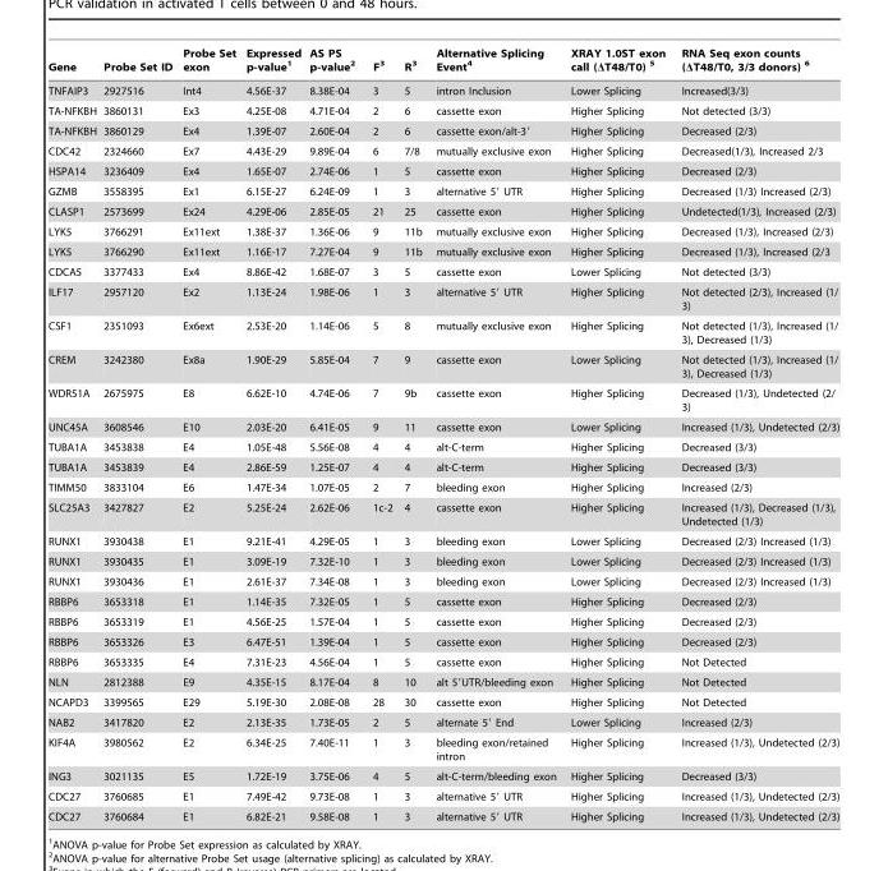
<table><thead><tr><td>Gene</td><td>Probe Set ID</td><td>Probe Set exon</td><td>Expressed p-value<sup>1</sup></td><td>AS PS p-value<sup>2</sup></td><td>F<sup>3</sup></td><td>R<sup>3</sup></td><td>Alternative Splicing Event<sup>4</sup></td><td>XRAY 1.0ST exon call (ΔT48/T0) 5</td><td>RNA Seq exon counts (ΔT48/T0, 3/3 donors) 6</td></tr></thead><tbody><tr><td>TNFAIP3</td><td>2927516</td><td>Int4</td><td>4.56E-37</td><td>8.38E-04</td><td>3</td><td>5</td><td>intron Inclusion</td><td>Lower Splicing</td><td>Increased(3/3)</td></tr><tr><td>TA-NFKBH</td><td>3860131</td><td>Ex3</td><td>4.25E-08</td><td>4.71E-04</td><td>2</td><td>6</td><td>cassette exon</td><td>Higher Splicing</td><td>Not detected (3/3)</td></tr><tr><td>TA-NFKBH</td><td>3860129</td><td>Ex4</td><td>1.39E-07</td><td>2.60E-04</td><td>2</td><td>6</td><td>cassette exon/alt-3′</td><td>Higher Splicing</td><td>Decreased (2/3)</td></tr><tr><td>CDC42</td><td>2324660</td><td>Ex7</td><td>4.43E-29</td><td>9.89E-04</td><td>6</td><td>7/8</td><td>mutually exclusive exon</td><td>Higher Splicing</td><td>Decreased(1/3), Increased 2/3</td></tr><tr><td>HSPA14</td><td>3236409</td><td>Ex4</td><td>1.65E-07</td><td>2.74E-06</td><td>1</td><td>5</td><td>cassette exon</td><td>Higher Splicing</td><td>Decreased (2/3)</td></tr><tr><td>GZMB</td><td>3558395</td><td>Ex1</td><td>6.15E-27</td><td>6.24E-09</td><td>1</td><td>3</td><td>alternative 5′ UTR</td><td>Higher Splicing</td><td>Decreased (1/3) Increased (2/3)</td></tr><tr><td>CLASP1</td><td>2573699</td><td>Ex24</td><td>4.29E-06</td><td>2.85E-05</td><td>21</td><td>25</td><td>cassette exon</td><td>Higher Splicing</td><td>Undetected(1/3), Increased (2/3)</td></tr><tr><td>LYK5</td><td>3766291</td><td>Ex11ext</td><td>1.38E-37</td><td>1.36E-06</td><td>9</td><td>11b</td><td>mutually exclusive exon</td><td>Higher Splicing</td><td>Decreased (1/3), Increased (2/3)</td></tr><tr><td>LYK5</td><td>3766290</td><td>Ex11ext</td><td>1.16E-17</td><td>7.27E-04</td><td>9</td><td>11b</td><td>mutually exclusive exon</td><td>Higher Splicing</td><td>Decreased (1/3), Increased (2/3</td></tr><tr><td>CDCA5</td><td>3377433</td><td>Ex4</td><td>8.86E-42</td><td>1.68E-07</td><td>3</td><td>5</td><td>cassette exon</td><td>Lower Splicing</td><td>Not detected (3/3)</td></tr><tr><td>ILF17</td><td>2957120</td><td>Ex2</td><td>1.13E-24</td><td>1.98E-06</td><td>1</td><td>3</td><td>alternative 5′ UTR</td><td>Higher Splicing</td><td>Not detected (2/3), Increased (1/ 3)</td></tr><tr><td>CSF1</td><td>2351093</td><td>Ex6ext</td><td>2.53E-20</td><td>1.14E-06</td><td>5</td><td>8</td><td>mutually exclusive exon</td><td>Higher Splicing</td><td>Not detected (1/3), Increased (1/ 3), Decreased (1/3)</td></tr><tr><td>CREM</td><td>3242380</td><td>Ex8a</td><td>1.90E-29</td><td>5.85E-04</td><td>7</td><td>9</td><td>cassette exon</td><td>Lower Splicing</td><td>Not detected (1/3), Increased (1/ 3), Decreased (1/3)</td></tr><tr><td>WDR51A</td><td>2675975</td><td>E8</td><td>6.62E-10</td><td>4.74E-06</td><td>7</td><td>9b</td><td>cassette exon</td><td>Higher Splicing</td><td>Decreased (1/3), Undetected (2/ 3)</td></tr><tr><td>UNC45A</td><td>3608546</td><td>E10</td><td>2.03E-20</td><td>6.41E-05</td><td>9</td><td>11</td><td>cassette exon</td><td>Lower Splicing</td><td>Increased (1/3), Undetected (2/3)</td></tr><tr><td>TUBA1A</td><td>3453838</td><td>E4</td><td>1.05E-48</td><td>5.56E-08</td><td>4</td><td>4</td><td>alt-C-term</td><td>Higher Splicing</td><td>Decreased (3/3)</td></tr><tr><td>TUBA1A</td><td>3453839</td><td>E4</td><td>2.86E-59</td><td>1.25E-07</td><td>4</td><td>4</td><td>alt-C-term</td><td>Higher Splicing</td><td>Decreased (3/3)</td></tr><tr><td>TIMM50</td><td>3833104</td><td>E6</td><td>1.47E-34</td><td>1.07E-05</td><td>2</td><td>7</td><td>bleeding exon</td><td>Higher Splicing</td><td>Increased (2/3)</td></tr><tr><td>SLC25A3</td><td>3427827</td><td>E2</td><td>5.25E-24</td><td>2.62E-06</td><td>1c-2</td><td>4</td><td>cassette exon</td><td>Higher Splicing</td><td>Increased (1/3), Decreased (1/3), Undetected (1/3)</td></tr><tr><td>RUNX1</td><td>3930438</td><td>E1</td><td>9.21E-41</td><td>4.29E-05</td><td>1</td><td>3</td><td>bleeding exon</td><td>Lower Splicing</td><td>Decreased (2/3) Increased (1/3)</td></tr><tr><td>RUNX1</td><td>3930435</td><td>E1</td><td>3.09E-19</td><td>7.32E-10</td><td>1</td><td>3</td><td>bleeding exon</td><td>Lower Splicing</td><td>Decreased (2/3) Increased (1/3)</td></tr><tr><td>RUNX1</td><td>3930436</td><td>E1</td><td>2.61E-37</td><td>7.34E-08</td><td>1</td><td>3</td><td>bleeding exon</td><td>Lower Splicing</td><td>Decreased (2/3) Increased (1/3)</td></tr><tr><td>RBBP6</td><td>3653318</td><td>E1</td><td>1.14E-35</td><td>7.32E-05</td><td>1</td><td>5</td><td>cassette exon</td><td>Higher Splicing</td><td>Decreased (2/3)</td></tr><tr><td>RBBP6</td><td>3653319</td><td>E1</td><td>4.56E-25</td><td>1.57E-04</td><td>1</td><td>5</td><td>cassette exon</td><td>Higher Splicing</td><td>Decreased (2/3)</td></tr><tr><td>RBBP6</td><td>3653326</td><td>E3</td><td>6.47E-51</td><td>1.39E-04</td><td>1</td><td>5</td><td>cassette exon</td><td>Higher Splicing</td><td>Decreased (2/3)</td></tr><tr><td>RBBP6</td><td>3653335</td><td>E4</td><td>7.31E-23</td><td>4.56E-04</td><td>1</td><td>5</td><td>cassette exon</td><td>Higher Splicing</td><td>Not Detected</td></tr><tr><td>NLN</td><td>2812388</td><td>E9</td><td>4.35E-15</td><td>8.17E-04</td><td>8</td><td>10</td><td>alt 5′UTR/bleeding exon</td><td>Higher Splicing</td><td>Not Detected</td></tr><tr><td>NCAPD3</td><td>3399565</td><td>E29</td><td>5.19E-30</td><td>2.08E-08</td><td>28</td><td>30</td><td>cassette exon</td><td>Higher Splicing</td><td>Not Detected</td></tr><tr><td>NAB2</td><td>3417820</td><td>E2</td><td>2.13E-35</td><td>1.73E-05</td><td>2</td><td>5</td><td>alternate 5′ End</td><td>Lower Splicing</td><td>Increased (2/3)</td></tr><tr><td>KIF4A</td><td>3980562</td><td>E2</td><td>6.34E-25</td><td>7.40E-11</td><td>1</td><td>3</td><td>bleeding exon/retained intron</td><td>Higher Splicing</td><td>Increased (1/3), Undetected (2/3)</td></tr><tr><td>ING3</td><td>3021135</td><td>E5</td><td>1.72E-19</td><td>3.75E-06</td><td>4</td><td>5</td><td>alt-C-term/bleeding exon</td><td>Higher Splicing</td><td>Decreased (3/3)</td></tr><tr><td>CDC27</td><td>3760685</td><td>E1</td><td>7.49E-42</td><td>9.73E-08</td><td>1</td><td>3</td><td>alternative 5′ UTR</td><td>Higher Splicing</td><td>Increased (1/3), Undetected (2/3)</td></tr><tr><td>CDC27</td><td>3760684</td><td>E1</td><td>6.82E-21</td><td>9.58E-08</td><td>1</td><td>3</td><td>alternative 5′ UTR</td><td>Higher Splicing</td><td>Increased (1/3), Undetected (2/3)</td></tr></tbody></table>